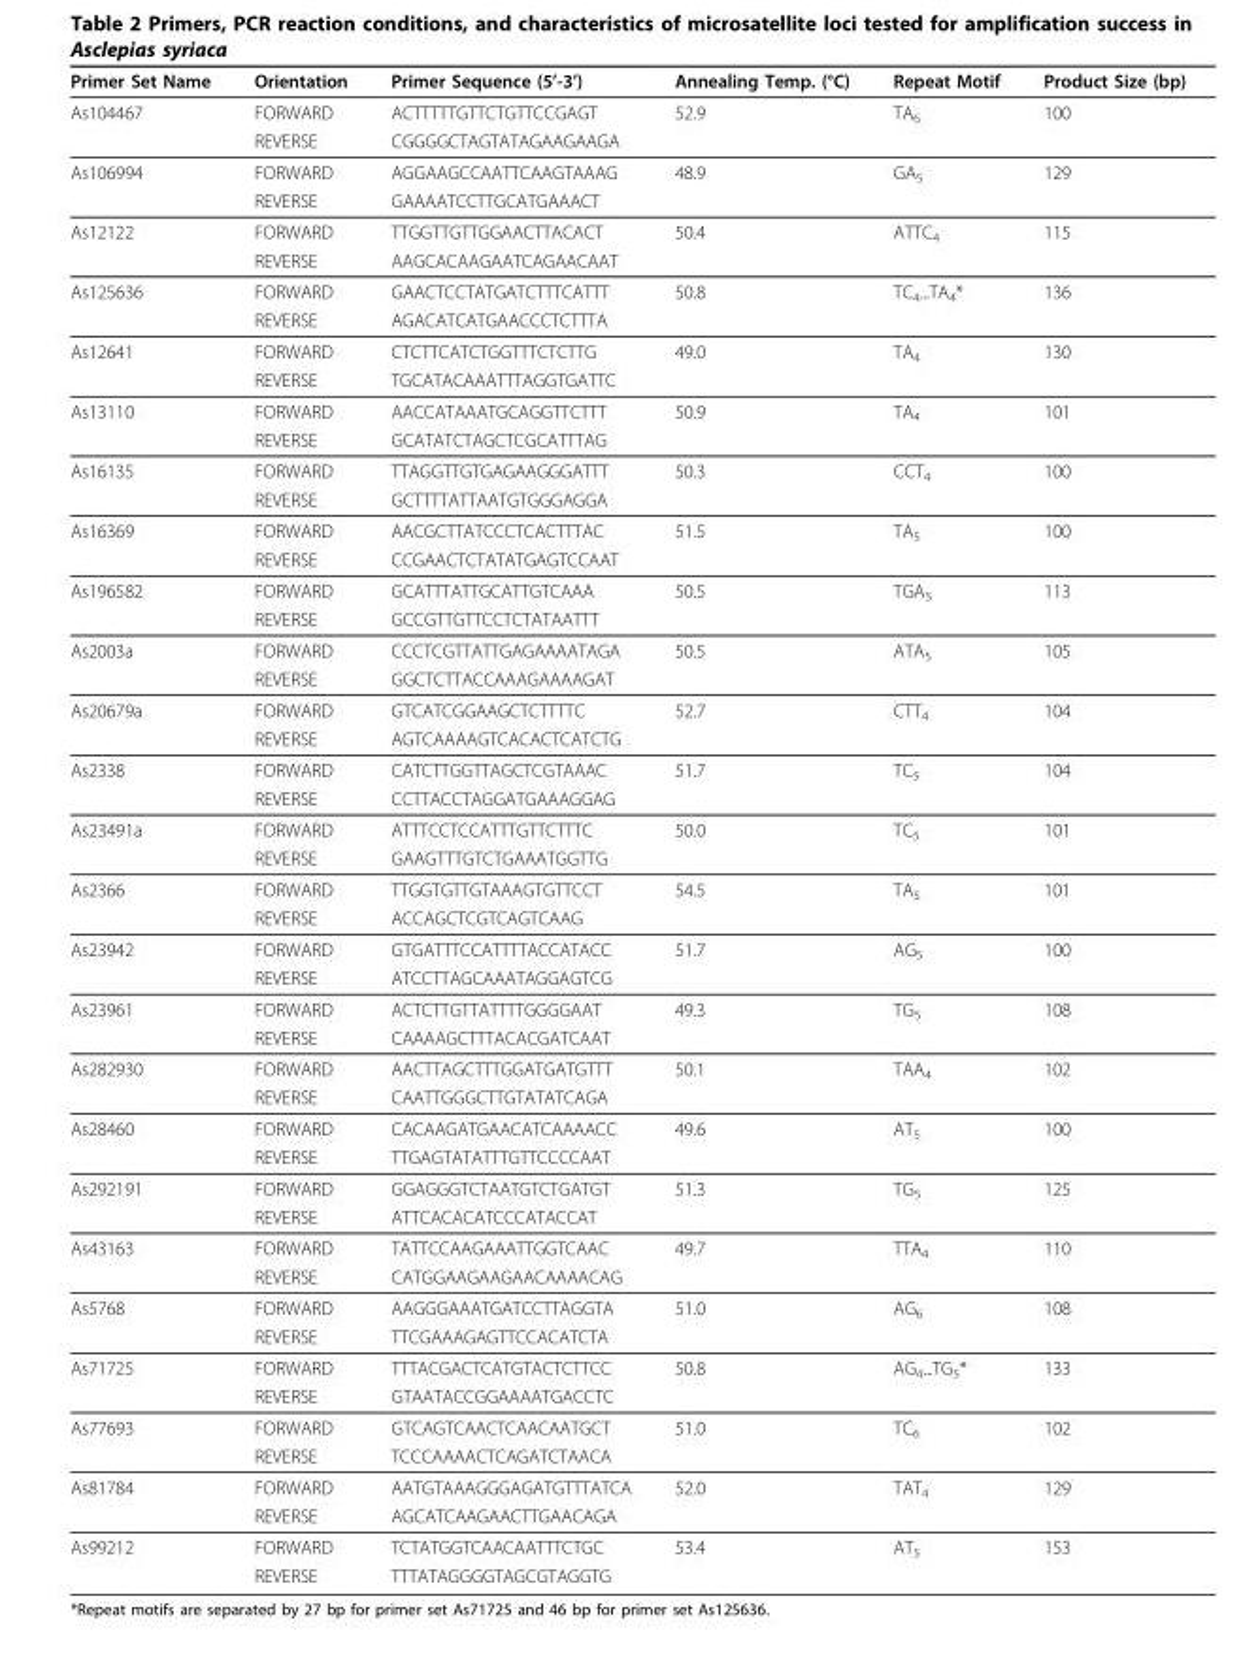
<table><thead><tr><td>Primer Set Name</td><td>Orientation</td><td>Primer Sequence (5’-3’)</td><td>Annealing Temp. (°C)</td><td>Repeat Motif</td><td>Product Size (bp)</td></tr></thead><tbody><tr><td rowspan="2">As104467</td><td>FORWARD</td><td>ACTTTTTGTTCTGTTCCGAGT</td><td>52.9</td><td>TA<sub>6</sub></td><td>100</td></tr><tr><td>REVERSE</td><td>CGGGGCTAGTATAGAAGAAGA</td><td></td><td></td><td></td></tr><tr><td rowspan="2">As106994</td><td>FORWARD</td><td>AGGAAGCCAATTCAAGTAAAG</td><td>48.9</td><td>GA<sub>5</sub></td><td>129</td></tr><tr><td>REVERSE</td><td>GAAAATCCTTGCATGAAACT</td><td></td><td></td><td></td></tr><tr><td rowspan="2">As12122</td><td>FORWARD</td><td>TTGGTTGTTGGAACTTACACT</td><td>50.4</td><td>ATTC<sub>4</sub></td><td>115</td></tr><tr><td>REVERSE</td><td>AAGCACAAGAATCAGAACAAT</td><td></td><td></td><td></td></tr><tr><td rowspan="2">As125636</td><td>FORWARD</td><td>GAACTCCTATGATCTTTCATTT</td><td>50.8</td><td>TC<sub>4</sub>...TA<sub>4</sub>*</td><td>136</td></tr><tr><td>REVERSE</td><td>AGACATCATGAACCCTCTTTA</td><td></td><td></td><td></td></tr><tr><td rowspan="2">As12641</td><td>FORWARD</td><td>CTCTTCATCTGGTTTCTCTTG</td><td>49.0</td><td>TA<sub>4</sub></td><td>130</td></tr><tr><td>REVERSE</td><td>TGCATACAAATTTAGGTGATTC</td><td></td><td></td><td></td></tr><tr><td rowspan="2">As13110</td><td>FORWARD</td><td>AACCATAAATGCAGGTTCTTT</td><td>50.9</td><td>TA<sub>4</sub></td><td>101</td></tr><tr><td>REVERSE</td><td>GCATATCTAGCTCGCATTTAG</td><td></td><td></td><td></td></tr><tr><td rowspan="2">As16135</td><td>FORWARD</td><td>TTAGGTTGTGAGAAGGGATTT</td><td>50.3</td><td>CCT<sub>4</sub></td><td>100</td></tr><tr><td>REVERSE</td><td>GCTTTTATTAATGTGGGAGGA</td><td></td><td></td><td></td></tr><tr><td rowspan="2">As16369</td><td>FORWARD</td><td>AACGCTTATCCCTCACTTTAC</td><td>51.5</td><td>TA<sub>5</sub></td><td>100</td></tr><tr><td>REVERSE</td><td>CCGAACTCTATATGAGTCCAAT</td><td></td><td></td><td></td></tr><tr><td rowspan="2">As196582</td><td>FORWARD</td><td>GCATTTATTGCATTGTCAAA</td><td>50.5</td><td>TGA<sub>5</sub></td><td>113</td></tr><tr><td>REVERSE</td><td>GCCGTTGTTCCTCTATAATTT</td><td></td><td></td><td></td></tr><tr><td rowspan="2">As2003a</td><td>FORWARD</td><td>CCCTCGTTATTGAGAAAATAGA</td><td>50.5</td><td>ATA<sub>5</sub></td><td>105</td></tr><tr><td>REVERSE</td><td>GGCTCTTACCAAAGAAAAGAT</td><td></td><td></td><td></td></tr><tr><td rowspan="2">As20679a</td><td>FORWARD</td><td>GTCATCGGAAGCTCTTTTC</td><td>52.7</td><td>CTT<sub>4</sub></td><td>104</td></tr><tr><td>REVERSE</td><td>AGTCAAAAGTCACACTCATCTG</td><td></td><td></td><td></td></tr><tr><td rowspan="2">As2338</td><td>FORWARD</td><td>CATCTTGGTTAGCTCGTAAAC</td><td>51.7</td><td>TC<sub>5</sub></td><td>104</td></tr><tr><td>REVERSE</td><td>CCTTACCTAGGATGAAAGGAG</td><td></td><td></td><td></td></tr><tr><td rowspan="2">As23491a</td><td>FORWARD</td><td>ATTTCCTCCATTTGTTCTTTC</td><td>50.0</td><td>TC<sub>5</sub></td><td>101</td></tr><tr><td>REVERSE</td><td>GAAGTTTGTCTGAAATGGTTG</td><td></td><td></td><td></td></tr><tr><td rowspan="2">As2366</td><td>FORWARD</td><td>TTGGTGTTGTAAAGTGTTCCT</td><td>54.5</td><td>TA<sub>5</sub></td><td>101</td></tr><tr><td>REVERSE</td><td>ACCAGCTCGTCAGTCAAG</td><td></td><td></td><td></td></tr><tr><td rowspan="2">As23942</td><td>FORWARD</td><td>GTGATTTCCATTTTACCATACC</td><td>51.7</td><td>AG<sub>5</sub></td><td>100</td></tr><tr><td>REVERSE</td><td>ATCCTTAGCAAATAGGAGTCG</td><td></td><td></td><td></td></tr><tr><td rowspan="2">As23961</td><td>FORWARD</td><td>ACTCTTGTTATTTTGGGGAAT</td><td>49.3</td><td>TG<sub>5</sub></td><td>108</td></tr><tr><td>REVERSE</td><td>CAAAAGCTTTACACGATCAAT</td><td></td><td></td><td></td></tr><tr><td rowspan="2">As282930</td><td>FORWARD</td><td>AACTTAGCTTTGGATGATGTTT</td><td>50.1</td><td>TAA<sub>4</sub></td><td>102</td></tr><tr><td>REVERSE</td><td>CAATTGGGCTTGTATATCAGA</td><td></td><td></td><td></td></tr><tr><td rowspan="2">As28460</td><td>FORWARD</td><td>CACAAGATGAACATCAAAACC</td><td>49.6</td><td>AT<sub>5</sub></td><td>100</td></tr><tr><td>REVERSE</td><td>TTGAGTATATTTGTTCCCCAAT</td><td></td><td></td><td></td></tr><tr><td rowspan="2">As292191</td><td>FORWARD</td><td>GGAGGGTCTAATGTCTGATGT</td><td>51.3</td><td>TG<sub>5</sub></td><td>125</td></tr><tr><td>REVERSE</td><td>ATTCACACATCCCATACCAT</td><td></td><td></td><td></td></tr><tr><td rowspan="2">As43163</td><td>FORWARD</td><td>TATTCCAAGAAATTGGTCAAC</td><td>49.7</td><td>TTA<sub>4</sub></td><td>110</td></tr><tr><td>REVERSE</td><td>CATGGAAGAAGAACAAAACAG</td><td></td><td></td><td></td></tr><tr><td rowspan="2">As5768</td><td>FORWARD</td><td>AAGGGAAATGATCCTTAGGTA</td><td>51.0</td><td>AG<sub>6</sub></td><td>108</td></tr><tr><td>REVERSE</td><td>TTCGAAAGAGTTCCACATCTA</td><td></td><td></td><td></td></tr><tr><td rowspan="2">As71725</td><td>FORWARD</td><td>TTTACGACTCATGTACTCTTCC</td><td>50.8</td><td>AG<sub>4</sub>...TG<sub>5</sub>*</td><td>133</td></tr><tr><td>REVERSE</td><td>GTAATACCGGAAAATGACCTC</td><td></td><td></td><td></td></tr><tr><td rowspan="2">As77693</td><td>FORWARD</td><td>GTCAGTCAACTCAACAATGCT</td><td>51.0</td><td>TC<sub>6</sub></td><td>102</td></tr><tr><td>REVERSE</td><td>TCCCAAAACTCAGATCTAACA</td><td></td><td></td><td></td></tr><tr><td rowspan="2">As81784</td><td>FORWARD</td><td>AATGTAAAGGGAGATGTTTATCA</td><td>52.0</td><td>TAT<sub>4</sub></td><td>129</td></tr><tr><td>REVERSE</td><td>AGCATCAAGAACTTGAACAGA</td><td></td><td></td><td></td></tr><tr><td rowspan="2">As99212</td><td>FORWARD</td><td>TCTATGGTCAACAATTTCTGC</td><td>53.4</td><td>AT<sub>5</sub></td><td>153</td></tr><tr><td>REVERSE</td><td>TTTATAGGGGTAGCGTAGGTG</td><td></td><td></td><td></td></tr></tbody></table>